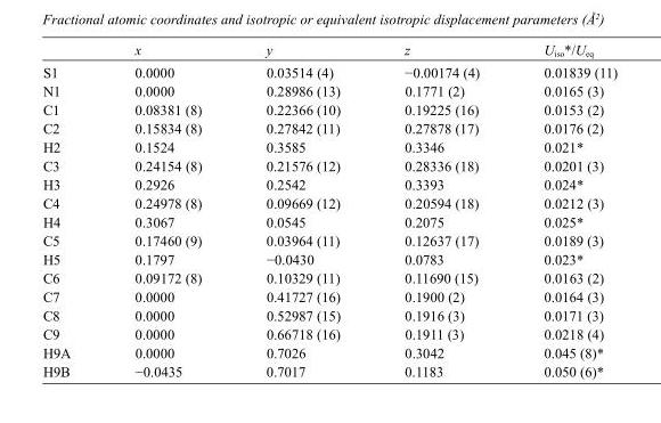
<table><thead><tr><td></td><td>x</td><td>y</td><td>z</td><td>U<sub>iso</sub>*/U<sub>eq</sub></td></tr></thead><tbody><tr><td>S1</td><td>0.0000</td><td>0.03514 (4)</td><td>−0.00174 (4)</td><td>0.01839 (11)</td></tr><tr><td>N1</td><td>0.0000</td><td>0.28986 (13)</td><td>0.1771 (2)</td><td>0.0165 (3)</td></tr><tr><td>C1</td><td>0.08381 (8)</td><td>0.22366 (10)</td><td>0.19225 (16)</td><td>0.0153 (2)</td></tr><tr><td>C2</td><td>0.15834 (8)</td><td>0.27842 (11)</td><td>0.27878 (17)</td><td>0.0176 (2)</td></tr><tr><td>H2</td><td>0.1524</td><td>0.3585</td><td>0.3346</td><td>0.021*</td></tr><tr><td>C3</td><td>0.24154 (8)</td><td>0.21576 (12)</td><td>0.28336 (18)</td><td>0.0201 (3)</td></tr><tr><td>H3</td><td>0.2926</td><td>0.2542</td><td>0.3393</td><td>0.024*</td></tr><tr><td>C4</td><td>0.24978 (8)</td><td>0.09669 (12)</td><td>0.20594 (18)</td><td>0.0212 (3)</td></tr><tr><td>H4</td><td>0.3067</td><td>0.0545</td><td>0.2075</td><td>0.025*</td></tr><tr><td>C5</td><td>0.17460 (9)</td><td>0.03964 (11)</td><td>0.12637 (17)</td><td>0.0189 (3)</td></tr><tr><td>H5</td><td>0.1797</td><td>−0.0430</td><td>0.0783</td><td>0.023*</td></tr><tr><td>C6</td><td>0.09172 (8)</td><td>0.10329 (11)</td><td>0.11690 (15)</td><td>0.0163 (2)</td></tr><tr><td>C7</td><td>0.0000</td><td>0.41727 (16)</td><td>0.1900 (2)</td><td>0.0164 (3)</td></tr><tr><td>C8</td><td>0.0000</td><td>0.52987 (15)</td><td>0.1916 (3)</td><td>0.0171 (3)</td></tr><tr><td>C9</td><td>0.0000</td><td>0.66718 (16)</td><td>0.1911 (3)</td><td>0.0218 (4)</td></tr><tr><td>H9A</td><td>0.0000</td><td>0.7026</td><td>0.3042</td><td>0.045 (8)*</td></tr><tr><td>H9B</td><td>−0.0435</td><td>0.7017</td><td>0.1183</td><td>0.050 (6)*</td></tr></tbody></table>